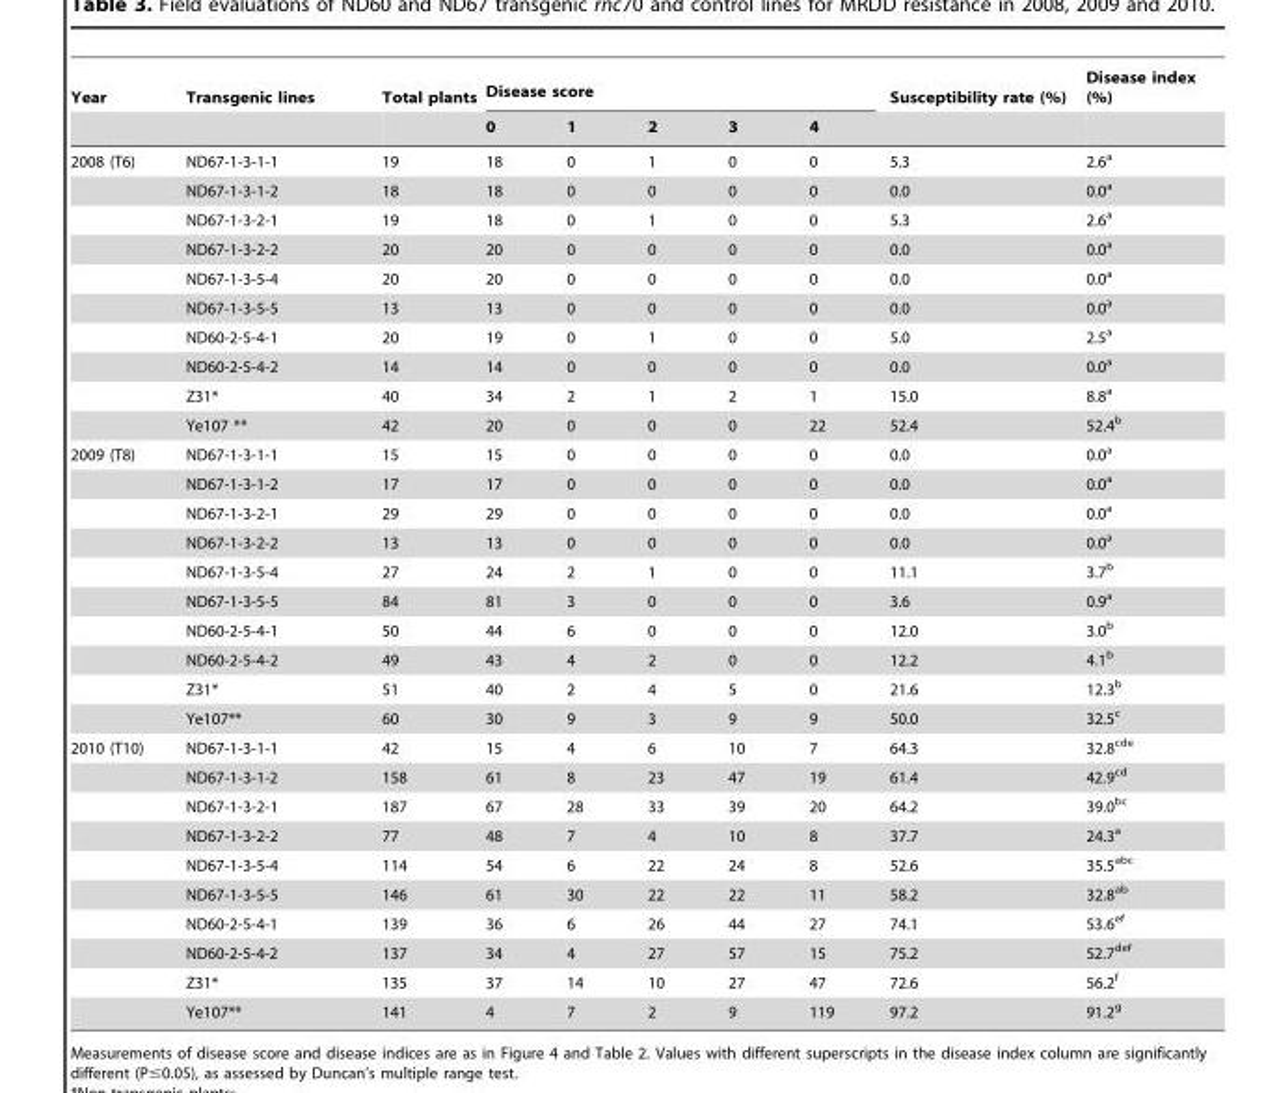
<table><thead><tr><td rowspan="2">Year</td><td rowspan="2">Transgenic lines</td><td rowspan="2">Total plants</td><td colspan="5">Disease score</td><td rowspan="2">Susceptibility rate (%)</td><td rowspan="2">Disease index (%)</td></tr><tr><td>0</td><td>1</td><td>2</td><td>3</td><td>4</td></tr></thead><tbody><tr><td rowspan="10">2008 (T6)</td><td>ND67-1-3-1-1</td><td>19</td><td>18</td><td>0</td><td>1</td><td>0</td><td>0</td><td>5.3</td><td>2.6<sup>a</sup></td></tr><tr><td>ND67-1-3-1-2</td><td>18</td><td>18</td><td>0</td><td>0</td><td>0</td><td>0</td><td>0.0</td><td>0.0<sup>a</sup></td></tr><tr><td>ND67-1-3-2-1</td><td>19</td><td>18</td><td>0</td><td>1</td><td>0</td><td>0</td><td>5.3</td><td>2.6<sup>a</sup></td></tr><tr><td>ND67-1-3-2-2</td><td>20</td><td>20</td><td>0</td><td>0</td><td>0</td><td>0</td><td>0.0</td><td>0.0<sup>a</sup></td></tr><tr><td>ND67-1-3-5-4</td><td>20</td><td>20</td><td>0</td><td>0</td><td>0</td><td>0</td><td>0.0</td><td>0.0<sup>a</sup></td></tr><tr><td>ND67-1-3-5-5</td><td>13</td><td>13</td><td>0</td><td>0</td><td>0</td><td>0</td><td>0.0</td><td>0.0<sup>a</sup></td></tr><tr><td>ND60-2-5-4-1</td><td>20</td><td>19</td><td>0</td><td>1</td><td>0</td><td>0</td><td>5.0</td><td>2.5<sup>a</sup></td></tr><tr><td>ND60-2-5-4-2</td><td>14</td><td>14</td><td>0</td><td>0</td><td>0</td><td>0</td><td>0.0</td><td>0.0<sup>a</sup></td></tr><tr><td>Z31*</td><td>40</td><td>34</td><td>2</td><td>1</td><td>2</td><td>1</td><td>15.0</td><td>8.8<sup>a</sup></td></tr><tr><td>Ye107 **</td><td>42</td><td>20</td><td>0</td><td>0</td><td>0</td><td>22</td><td>52.4</td><td>52.4<sup>b</sup></td></tr><tr><td rowspan="10">2009 (T8)</td><td>ND67-1-3-1-1</td><td>15</td><td>15</td><td>0</td><td>0</td><td>0</td><td>0</td><td>0.0</td><td>0.0<sup>a</sup></td></tr><tr><td>ND67-1-3-1-2</td><td>17</td><td>17</td><td>0</td><td>0</td><td>0</td><td>0</td><td>0.0</td><td>0.0<sup>a</sup></td></tr><tr><td>ND67-1-3-2-1</td><td>29</td><td>29</td><td>0</td><td>0</td><td>0</td><td>0</td><td>0.0</td><td>0.0<sup>a</sup></td></tr><tr><td>ND67-1-3-2-2</td><td>13</td><td>13</td><td>0</td><td>0</td><td>0</td><td>0</td><td>0.0</td><td>0.0<sup>a</sup></td></tr><tr><td>ND67-1-3-5-4</td><td>27</td><td>24</td><td>2</td><td>1</td><td>0</td><td>0</td><td>11.1</td><td>3.7<sup>b</sup></td></tr><tr><td>ND67-1-3-5-5</td><td>84</td><td>81</td><td>3</td><td>0</td><td>0</td><td>0</td><td>3.6</td><td>0.9<sup>a</sup></td></tr><tr><td>ND60-2-5-4-1</td><td>50</td><td>44</td><td>6</td><td>0</td><td>0</td><td>0</td><td>12.0</td><td>3.0<sup>b</sup></td></tr><tr><td>ND60-2-5-4-2</td><td>49</td><td>43</td><td>4</td><td>2</td><td>0</td><td>0</td><td>12.2</td><td>4.1<sup>b</sup></td></tr><tr><td>Z31*</td><td>51</td><td>40</td><td>2</td><td>4</td><td>5</td><td>0</td><td>21.6</td><td>12.3<sup>b</sup></td></tr><tr><td>Ye107**</td><td>60</td><td>30</td><td>9</td><td>3</td><td>9</td><td>9</td><td>50.0</td><td>32.5<sup>c</sup></td></tr><tr><td rowspan="10">2010 (T10)</td><td>ND67-1-3-1-1</td><td>42</td><td>15</td><td>4</td><td>6</td><td>10</td><td>7</td><td>64.3</td><td>32.8<sup>cde</sup></td></tr><tr><td>ND67-1-3-1-2</td><td>158</td><td>61</td><td>8</td><td>23</td><td>47</td><td>19</td><td>61.4</td><td>42.9<sup>cd</sup></td></tr><tr><td>ND67-1-3-2-1</td><td>187</td><td>67</td><td>28</td><td>33</td><td>39</td><td>20</td><td>64.2</td><td>39.0<sup>bc</sup></td></tr><tr><td>ND67-1-3-2-2</td><td>77</td><td>48</td><td>7</td><td>4</td><td>10</td><td>8</td><td>37.7</td><td>24.3<sup>a</sup></td></tr><tr><td>ND67-1-3-5-4</td><td>114</td><td>54</td><td>6</td><td>22</td><td>24</td><td>8</td><td>52.6</td><td>35.5<sup>abc</sup></td></tr><tr><td>ND67-1-3-5-5</td><td>146</td><td>61</td><td>30</td><td>22</td><td>22</td><td>11</td><td>58.2</td><td>32.8<sup>ab</sup></td></tr><tr><td>ND60-2-5-4-1</td><td>139</td><td>36</td><td>6</td><td>26</td><td>44</td><td>27</td><td>74.1</td><td>53.6<sup>ef</sup></td></tr><tr><td>ND60-2-5-4-2</td><td>137</td><td>34</td><td>4</td><td>27</td><td>57</td><td>15</td><td>75.2</td><td>52.7<sup>def</sup></td></tr><tr><td>Z31*</td><td>135</td><td>37</td><td>14</td><td>10</td><td>27</td><td>47</td><td>72.6</td><td>56.2<sup>f</sup></td></tr><tr><td>Ye107**</td><td>141</td><td>4</td><td>7</td><td>2</td><td>9</td><td>119</td><td>97.2</td><td>91.2<sup>g</sup></td></tr></tbody></table>